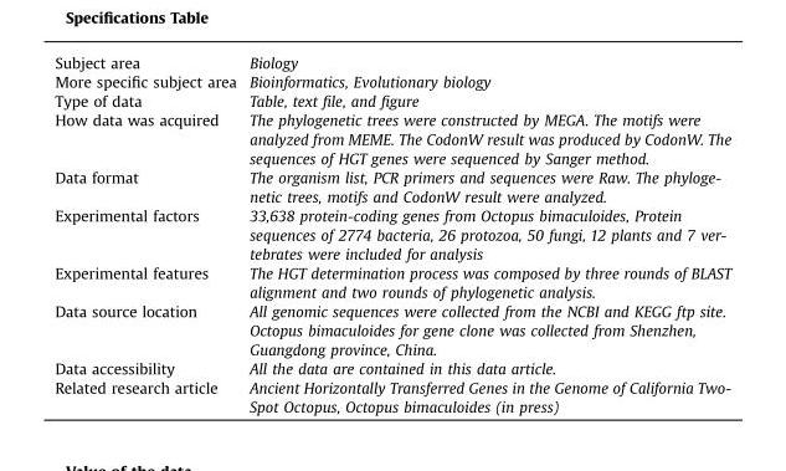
<table><tbody><tr><td>Subject area</td><td>Biology</td></tr><tr><td>More specific subject area</td><td>Bioinformatics, Evolutionary biology</td></tr><tr><td>Type of data</td><td>Table, text file, and figure</td></tr><tr><td>How data was acquired</td><td>The phylogenetic trees were constructed by MEGA. The motifs were analyzed from MEME. The CodonW result was produced by CodonW. The sequences of HGT genes were sequenced by Sanger method.</td></tr><tr><td>Data format</td><td>The organism list, PCR primers and sequences were Raw. The phyloge- netic trees, motifs and CodonW result were analyzed.</td></tr><tr><td>Experimental factors</td><td>33,638 protein-coding genes from Octopus bimaculoides, Protein sequences of 2774 bacteria, 26 protozoa, 50 fungi, 12 plants and 7 ver- tebrates were included for analysis</td></tr><tr><td>Experimental features</td><td>The HGT determination process was composed by three rounds of BLAST alignment and two rounds of phylogenetic analysis.</td></tr><tr><td>Data source location</td><td>All genomic sequences were collected from the NCBI and KEGG ftp site. Octopus bimaculoides for gene clone was collected from Shenzhen, Guangdong province, China.</td></tr><tr><td>Data accessibility</td><td>All the data are contained in this data article.</td></tr><tr><td>Related research article</td><td>Ancient Horizontally Transferred Genes in the Genome of California Two- Spot Octopus, Octopus bimaculoides (in press)</td></tr></tbody></table>